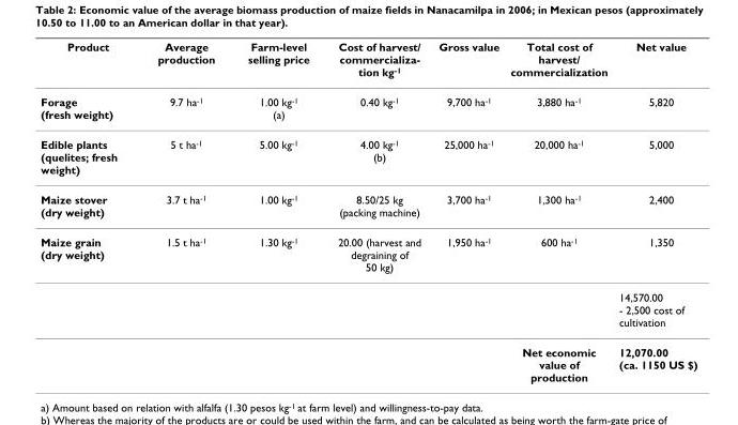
<table><thead><tr><td>Product</td><td>Average production</td><td>Farm-level selling price</td><td>Cost of harvest/ commercializa- tion kg-1</td><td>Gross value</td><td>Total cost of harvest/ commercialization</td><td>Net value</td></tr></thead><tbody><tr><td>Forage (fresh weight)</td><td>9.7 ha<sup>-1</sup></td><td>1.00 kg<sup>-1</sup> (a)</td><td>0.40 kg<sup>-1</sup></td><td>9,700 ha<sup>-1</sup></td><td>3,880 ha<sup>-1</sup></td><td>5,820</td></tr><tr><td>Edible plants (quelites; fresh weight)</td><td>5 t ha<sup>-1</sup></td><td>5.00 kg<sup>-1</sup></td><td>4.00 kg<sup>-1</sup> (b)</td><td>25,000 ha<sup>-1</sup></td><td>20,000 ha<sup>-1</sup></td><td>5,000</td></tr><tr><td>Maize stover (dry weight)</td><td>3.7 t ha<sup>-1</sup></td><td>1.00 kg<sup>-1</sup></td><td>8.50/25 kg (packing machine)</td><td>3,700 ha<sup>-1</sup></td><td>1,300 ha<sup>-1</sup></td><td>2,400</td></tr><tr><td rowspan="3">Maize grain (dry weight)</td><td>1.5 t ha<sup>-1</sup></td><td>1.30 kg<sup>-1</sup></td><td>20.00 (harvest and degraining of 50 kg)</td><td>1,950 ha<sup>-1</sup></td><td>600 ha<sup>-1</sup></td><td>1,350</td></tr><tr><td></td><td></td><td></td><td></td><td></td><td>14,570.00 - 2,500 cost of cultivation</td></tr><tr><td></td><td></td><td></td><td></td><td>Net economic value of production</td><td>12,070.00 (ca. 1150 US $)</td></tr></tbody></table>